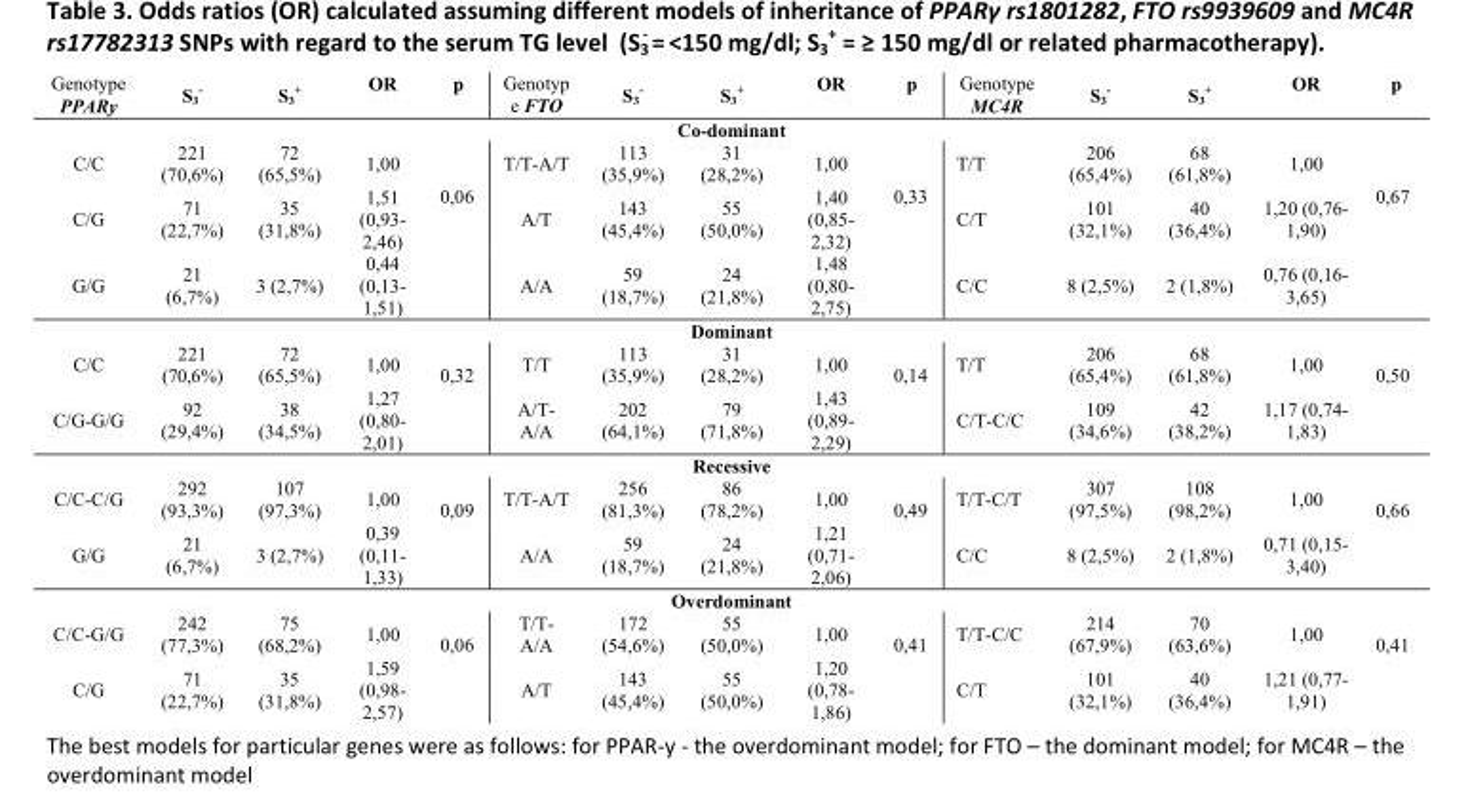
<table><tbody><tr><td>Genotype PPARy</td><td>S<sub>3</sub> <sup>-</sup></td><td>S<sub>3</sub> <sup>+</sup></td><td>OR</td><td>p</td><td>Genotyp e FTO</td><td>S<sub>3</sub> <sup>-</sup></td><td>S<sub>3</sub> <sup>+</sup></td><td>OR</td><td>p</td><td>Genotype MC4R</td><td>S<sub>3</sub> <sup>-</sup></td><td>S<sub>3</sub> <sup>+</sup></td><td>OR</td><td>p</td></tr><tr><td colspan="15">Co-dominant</td></tr><tr><td>C/C</td><td>221 (70,6%)</td><td>72 (65,5%)</td><td>1,00</td><td rowspan="3">0,06</td><td>T/T-A/T</td><td>113 (35,9%)</td><td>31 (28,2%)</td><td>1,00</td><td rowspan="3">0,33</td><td>T/T</td><td>206 (65,4%)</td><td>68 (61,8%)</td><td>1,00</td><td rowspan="3">0,67</td></tr><tr><td>C/G</td><td>71 (22,7%)</td><td>35 (31,8%)</td><td>1,51 (0,93- 2,46)</td><td>A/T</td><td>143 (45,4%)</td><td>55 (50,0%)</td><td>1,40 (0,85- 2,32)</td><td>C/T</td><td>101 (32,1%)</td><td>40 (36,4%)</td><td>1,20 (0,76- 1,90)</td></tr><tr><td>G/G</td><td>21 (6,7%)</td><td>3 (2,7%)</td><td>0,44 (0,13- 1,51)</td><td>A/A</td><td>59 (18,7%)</td><td>24 (21,8%)</td><td>1,48 (0,80- 2,75)</td><td>C/C</td><td>8 (2,5%)</td><td>2 (1,8%)</td><td>0,76 (0,16- 3,65)</td></tr><tr><td colspan="15">Dominant</td></tr><tr><td>C/C</td><td>221 (70,6%)</td><td>72 (65,5%)</td><td>1,00</td><td rowspan="2">0,32</td><td>T/T</td><td>113 (35,9%)</td><td>31 (28,2%)</td><td>1,00</td><td rowspan="2">0,14</td><td>T/T</td><td>206 (65,4%)</td><td>68 (61,8%)</td><td>1,00</td><td rowspan="2">0,50</td></tr><tr><td>C/G-G/G</td><td>92 (29,4%)</td><td>38 (34,5%)</td><td>1,27 (0,80- 2,01)</td><td>A/T- A/A</td><td>202 (64,1%)</td><td>79 (71,8%)</td><td>1,43 (0,89- 2,29)</td><td>C/T-C/C</td><td>109 (34,6%)</td><td>42 (38,2%)</td><td>1,17 (0,74- 1,83)</td></tr><tr><td colspan="15">Recessive</td></tr><tr><td>C/C-C/G</td><td>292 (93,3%)</td><td>107 (97,3%)</td><td>1,00</td><td rowspan="2">0,09</td><td>T/T-A/T</td><td>256 (81,3%)</td><td>86 (78,2%)</td><td>1,00</td><td rowspan="2">0,49</td><td>T/T-C/T</td><td>307 (97,5%)</td><td>108 (98,2%)</td><td>1,00</td><td rowspan="2">0,66</td></tr><tr><td>G/G</td><td>21 (6,7%)</td><td>3 (2,7%)</td><td>0,39 (0,11- 1,33)</td><td>A/A</td><td>59 (18,7%)</td><td>24 (21,8%)</td><td>1,21 (0,71- 2,06)</td><td>C/C</td><td>8 (2,5%)</td><td>2 (1,8%)</td><td>0,71 (0,15- 3,40)</td></tr><tr><td colspan="15">Overdominant</td></tr><tr><td>C/C-G/G</td><td>242 (77,3%)</td><td>75 (68,2%)</td><td>1,00</td><td rowspan="2">0,06</td><td>T/T- A/A</td><td>172 (54,6%)</td><td>55 (50,0%)</td><td>1,00</td><td rowspan="2">0,41</td><td>T/T-C/C</td><td>214 (67,9%)</td><td>70 (63,6%)</td><td>1,00</td><td rowspan="2">0,41</td></tr><tr><td>C/G</td><td>71 (22,7%)</td><td>35 (31,8%)</td><td>1,59 (0,98- 2,57)</td><td>A/T</td><td>143 (45,4%)</td><td>55 (50,0%)</td><td>1,20 (0,78- 1,86)</td><td>C/T</td><td>101 (32,1%)</td><td>40 (36,4%)</td><td>1,21 (0,77- 1,91)</td></tr></tbody></table>